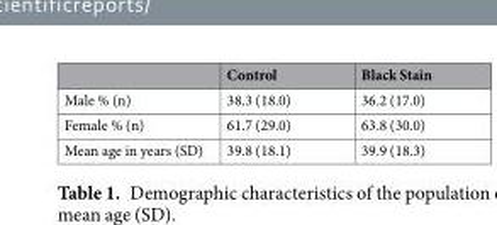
<table><thead><tr><td></td><td>Control</td><td>Black Stain</td></tr></thead><tbody><tr><td>Male % (n)</td><td>38.3 (18.0)</td><td>36.2 (17.0)</td></tr><tr><td>Female % (n)</td><td>61.7 (29.0)</td><td>63.8 (30.0)</td></tr><tr><td>Mean age in years (SD)</td><td>39.8 (18.1)</td><td>39.9 (18.3)</td></tr></tbody></table>